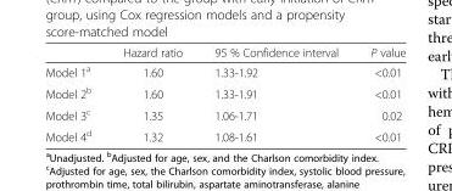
<table><thead><tr><td></td><td>Hazard ratio</td><td>95 % Confidence interval</td><td>P value</td></tr></thead><tbody><tr><td>Model 1<sup>a</sup></td><td>1.60</td><td>1.33-1.92</td><td>&lt;0.01</td></tr><tr><td>Model 2<sup>b</sup></td><td>1.60</td><td>1.33-1.91</td><td>&lt;0.01</td></tr><tr><td>Model 3<sup>c</sup></td><td>1.35</td><td>1.06-1.71</td><td>0.02</td></tr><tr><td>Model 4<sup>d</sup></td><td>1.32</td><td>1.08-1.61</td><td>&lt;0.01</td></tr></tbody></table>